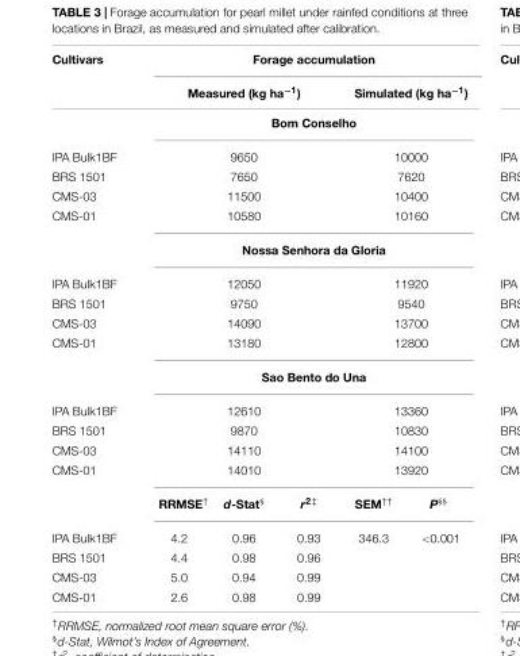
<table><thead><tr><td rowspan="2">Cultivars</td><td colspan="5">Forage accumulation</td></tr><tr><td colspan="3">Measured (kg ha<sup>−1</sup>)</td><td colspan="2">Simulated (kg ha<sup>−1</sup>)</td></tr></thead><tbody><tr><td></td><td colspan="5">Bom Conselho</td></tr><tr><td>IPA Bulk1BF</td><td colspan="3">9650</td><td colspan="2">10000</td></tr><tr><td>BRS 1501</td><td colspan="3">7650</td><td colspan="2">7620</td></tr><tr><td>CMS-03</td><td colspan="3">11500</td><td colspan="2">10400</td></tr><tr><td rowspan="2">CMS-01</td><td colspan="3">10580</td><td colspan="2">10160</td></tr><tr><td colspan="5">Nossa Senhora da Gloria</td></tr><tr><td>IPA Bulk1BF</td><td colspan="3">12050</td><td colspan="2">11920</td></tr><tr><td>BRS 1501</td><td colspan="3">9750</td><td colspan="2">9540</td></tr><tr><td>CMS-03</td><td colspan="3">14090</td><td colspan="2">13700</td></tr><tr><td rowspan="2">CMS-01</td><td colspan="3">13180</td><td colspan="2">12800</td></tr><tr><td colspan="5">Sao Bento do Una</td></tr><tr><td>IPA Bulk1BF</td><td colspan="3">12610</td><td colspan="2">13360</td></tr><tr><td>BRS 1501</td><td colspan="3">9870</td><td colspan="2">10830</td></tr><tr><td>CMS-03</td><td colspan="3">14110</td><td colspan="2">14100</td></tr><tr><td rowspan="2">CMS-01</td><td colspan="3">14010</td><td colspan="2">13920</td></tr><tr><td>RRMSE<sup>†</sup></td><td>d-Stat<sup>§</sup></td><td>r<sup>2‡</sup></td><td>SEM<sup>††</sup></td><td>P<sup>§§</sup></td></tr><tr><td>IPA Bulk1BF</td><td>4.2</td><td>0.96</td><td>0.93</td><td>346.3</td><td>&lt;0.001</td></tr><tr><td>BRS 1501</td><td>4.4</td><td>0.98</td><td>0.96</td><td></td><td></td></tr><tr><td>CMS-03</td><td>5.0</td><td>0.94</td><td>0.99</td><td></td><td></td></tr><tr><td>CMS-01</td><td>2.6</td><td>0.98</td><td>0.99</td><td></td><td></td></tr></tbody></table>